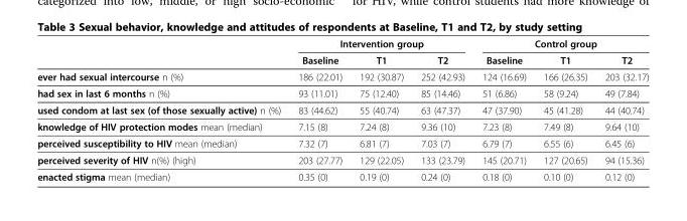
<table><thead><tr><td rowspan="2"></td><td colspan="3">Intervention group</td><td colspan="3">Control group</td></tr><tr><td>Baseline</td><td>T1</td><td>T2</td><td>Baseline</td><td>T1</td><td>T2</td></tr></thead><tbody><tr><td>ever had sexual intercourse n (%)</td><td>186 (22.01)</td><td>192 (30.87)</td><td>252 (42.93)</td><td>124 (16.69)</td><td>166 (26.35)</td><td>203 (32.17)</td></tr><tr><td>had sex in last 6 months n (%)</td><td>93 (11.01)</td><td>75 (12.40)</td><td>85 (14.46)</td><td>51 (6.86)</td><td>58 (9.24)</td><td>49 (7.84)</td></tr><tr><td>used condom at last sex (of those sexually active) n (%)</td><td>83 (44.62)</td><td>55 (40.74)</td><td>63 (47.37)</td><td>47 (37.90)</td><td>45 (41.28)</td><td>44 (40.74)</td></tr><tr><td>knowledge of HIV protection modes mean (median)</td><td>7.15 (8)</td><td>7.24 (8)</td><td>9.36 (10)</td><td>7.23 (8)</td><td>7.49 (8)</td><td>9.64 (10)</td></tr><tr><td>perceived susceptibility to HIV mean (median)</td><td>7.32 (7)</td><td>6.81 (7)</td><td>7.03 (7)</td><td>6.79 (7)</td><td>6.55 (6)</td><td>6.45 (6)</td></tr><tr><td>perceived severity of HIV n(%) (high)</td><td>203 (27.77)</td><td>129 (22.05)</td><td>133 (23.79)</td><td>145 (20.71)</td><td>127 (20.65)</td><td>94 (15.36)</td></tr><tr><td>enacted stigma mean (median)</td><td>0.35 (0)</td><td>0.19 (0)</td><td>0.24 (0)</td><td>0.18 (0)</td><td>0.10 (0)</td><td>0.12 (0)</td></tr></tbody></table>